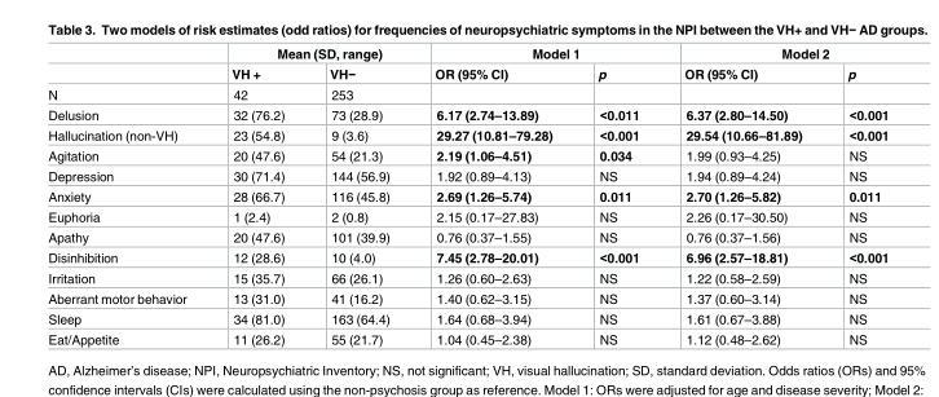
<table><thead><tr><td rowspan="2"></td><td colspan="2">Mean (SD, range)</td><td colspan="2">Model 1</td><td colspan="2">Model 2</td></tr><tr><td>VH +</td><td>VH−</td><td>OR (95% CI)</td><td>p</td><td>OR (95% CI)</td><td>p</td></tr></thead><tbody><tr><td>N</td><td>42</td><td>253</td><td></td><td></td><td></td><td></td></tr><tr><td>Delusion</td><td>32 (76.2)</td><td>73 (28.9)</td><td>6.17 (2.74–13.89)</td><td>&lt;0.011</td><td>6.37 (2.80–14.50)</td><td>&lt;0.001</td></tr><tr><td>Hallucination (non-VH)</td><td>23 (54.8)</td><td>9 (3.6)</td><td>29.27 (10.81–79.28)</td><td>&lt;0.001</td><td>29.54 (10.66–81.89)</td><td>&lt;0.001</td></tr><tr><td>Agitation</td><td>20 (47.6)</td><td>54 (21.3)</td><td>2.19 (1.06–4.51)</td><td>0.034</td><td>1.99 (0.93–4.25)</td><td>NS</td></tr><tr><td>Depression</td><td>30 (71.4)</td><td>144 (56.9)</td><td>1.92 (0.89–4.13)</td><td>NS</td><td>1.94 (0.89–4.24)</td><td>NS</td></tr><tr><td>Anxiety</td><td>28 (66.7)</td><td>116 (45.8)</td><td>2.69 (1.26–5.74)</td><td>0.011</td><td>2.70 (1.26–5.82)</td><td>0.011</td></tr><tr><td>Euphoria</td><td>1 (2.4)</td><td>2 (0.8)</td><td>2.15 (0.17–27.83)</td><td>NS</td><td>2.26 (0.17–30.50)</td><td>NS</td></tr><tr><td>Apathy</td><td>20 (47.6)</td><td>101 (39.9)</td><td>0.76 (0.37–1.55)</td><td>NS</td><td>0.76 (0.37–1.56)</td><td>NS</td></tr><tr><td>Disinhibition</td><td>12 (28.6)</td><td>10 (4.0)</td><td>7.45 (2.78–20.01)</td><td>&lt;0.001</td><td>6.96 (2.57–18.81)</td><td>&lt;0.001</td></tr><tr><td>Irritation</td><td>15 (35.7)</td><td>66 (26.1)</td><td>1.26 (0.60–2.63)</td><td>NS</td><td>1.22 (0.58–2.59)</td><td>NS</td></tr><tr><td>Aberrant motor behavior</td><td>13 (31.0)</td><td>41 (16.2)</td><td>1.40 (0.62–3.15)</td><td>NS</td><td>1.37 (0.60–3.14)</td><td>NS</td></tr><tr><td>Sleep</td><td>34 (81.0)</td><td>163 (64.4)</td><td>1.64 (0.68–3.94)</td><td>NS</td><td>1.61 (0.67–3.88)</td><td>NS</td></tr><tr><td>Eat/Appetite</td><td>11 (26.2)</td><td>55 (21.7)</td><td>1.04 (0.45–2.38)</td><td>NS</td><td>1.12 (0.48–2.62)</td><td>NS</td></tr></tbody></table>